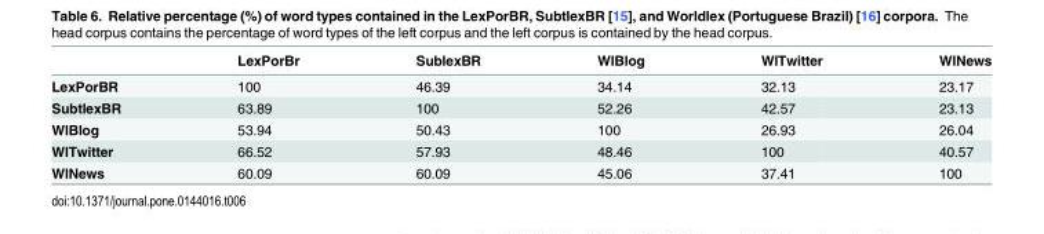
<table><thead><tr><td></td><td>LexPorBr</td><td>SublexBR</td><td>WlBlog</td><td>WlTwitter</td><td>WlNews</td></tr></thead><tbody><tr><td>LexPorBR</td><td>100</td><td>46.39</td><td>34.14</td><td>32.13</td><td>23.17</td></tr><tr><td>SubtlexBR</td><td>63.89</td><td>100</td><td>52.26</td><td>42.57</td><td>23.13</td></tr><tr><td>WlBlog</td><td>53.94</td><td>50.43</td><td>100</td><td>26.93</td><td>26.04</td></tr><tr><td>WlTwitter</td><td>66.52</td><td>57.93</td><td>48.46</td><td>100</td><td>40.57</td></tr><tr><td>WlNews</td><td>60.09</td><td>60.09</td><td>45.06</td><td>37.41</td><td>100</td></tr></tbody></table>